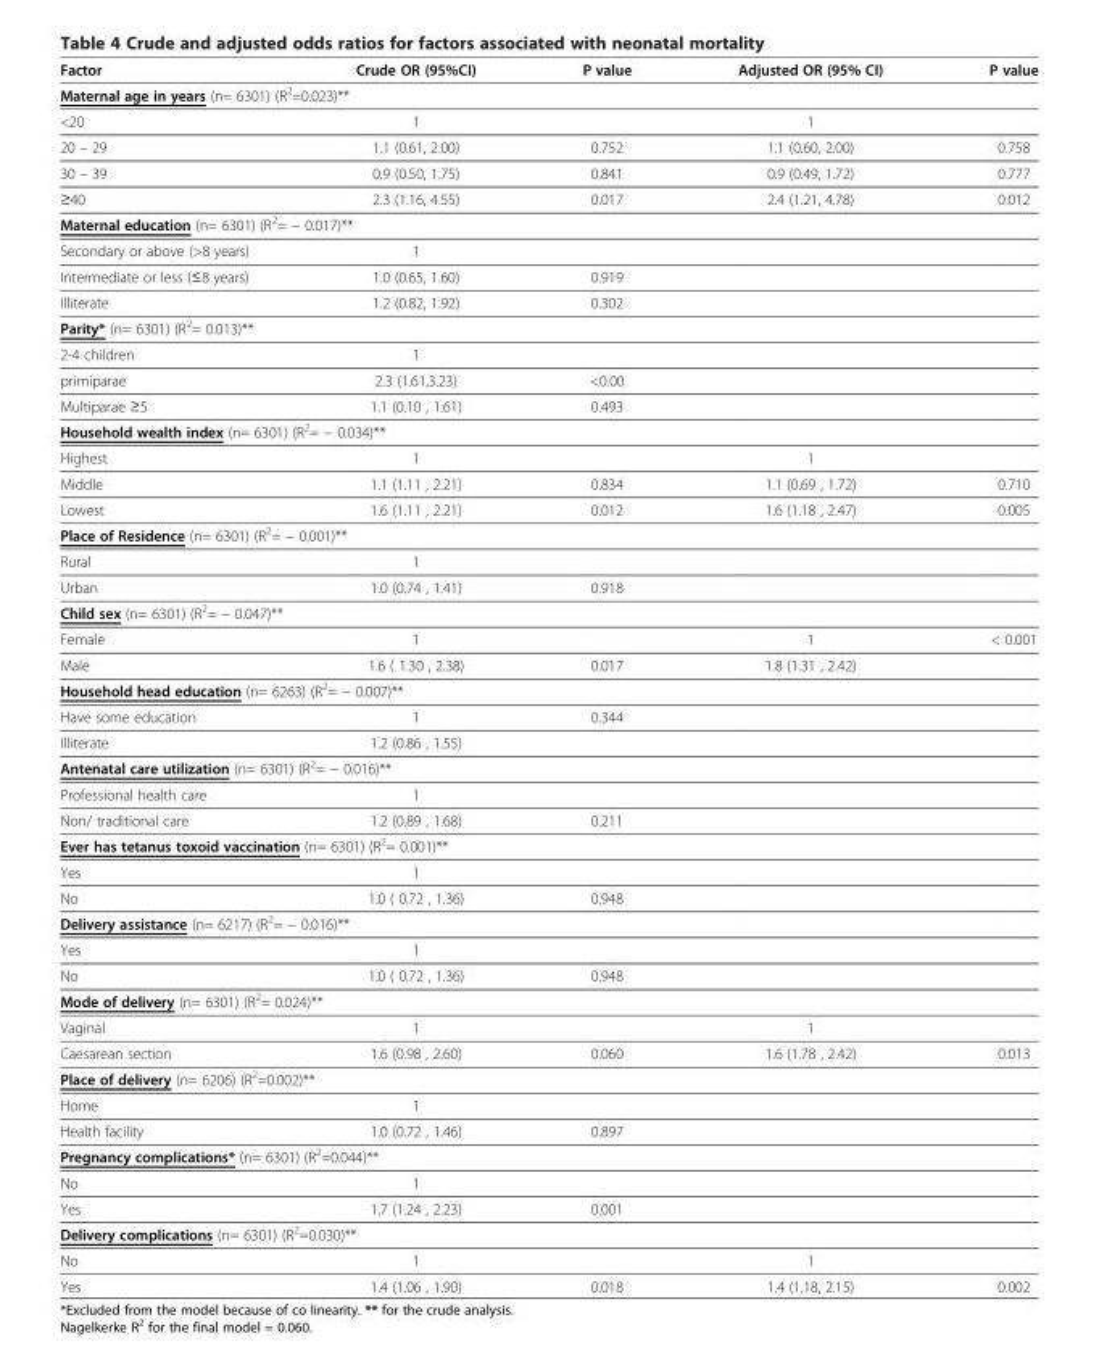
<table><thead><tr><td>Factor</td><td>Crude OR (95%CI)</td><td>P value</td><td>Adjusted OR (95% CI)</td><td>P value</td></tr></thead><tbody><tr><td colspan="5">Maternal age in years (n= 6301) (R<sup>2</sup>=0.023)**</td></tr><tr><td>&lt;20</td><td>1</td><td></td><td>1</td><td></td></tr><tr><td>20 – 29</td><td>1.1 (0.61, 2.00)</td><td>0.752</td><td>1.1 (0.60, 2.00)</td><td>0.758</td></tr><tr><td>30 – 39</td><td>0.9 (0.50, 1.75)</td><td>0.841</td><td>0.9 (0.49, 1.72)</td><td>0.777</td></tr><tr><td>≥40</td><td>2.3 (1.16, 4.55)</td><td>0.017</td><td>2.4 (1.21, 4.78)</td><td>0.012</td></tr><tr><td colspan="5">Maternal education (n= 6301) (R<sup>2</sup>= − 0.017)**</td></tr><tr><td>Secondary or above (&gt;8 years)</td><td>1</td><td></td><td></td><td></td></tr><tr><td>Intermediate or less (≤8 years)</td><td>1.0 (0.65, 1.60)</td><td>0.919</td><td></td><td></td></tr><tr><td>Illiterate</td><td>1.2 (0.82, 1.92)</td><td>0.302</td><td></td><td></td></tr><tr><td colspan="5">Parity* (n= 6301) (R<sup>2</sup>= 0.013)**</td></tr><tr><td>2-4 children</td><td>1</td><td></td><td></td><td></td></tr><tr><td>primiparae</td><td>2.3 (1.61,3.23)</td><td>&lt;0.00</td><td></td><td></td></tr><tr><td>Multiparae ≥5</td><td>1.1 (0.10 , 1.61)</td><td>0.493</td><td></td><td></td></tr><tr><td colspan="5">Household wealth index (n= 6301) (R<sup>2</sup>= − 0.034)**</td></tr><tr><td>Highest</td><td>1</td><td></td><td>1</td><td></td></tr><tr><td>Middle</td><td>1.1 (1.11 , 2.21)</td><td>0.834</td><td>1.1 (0.69 , 1.72)</td><td>0.710</td></tr><tr><td>Lowest</td><td>1.6 (1.11 , 2.21)</td><td>0.012</td><td>1.6 (1.18 , 2.47)</td><td>0.005</td></tr><tr><td colspan="5">Place of Residence (n= 6301) (R<sup>2</sup>= − 0.001)**</td></tr><tr><td>Rural</td><td>1</td><td></td><td></td><td></td></tr><tr><td>Urban</td><td>1.0 (0.74 , 1.41)</td><td>0.918</td><td></td><td></td></tr><tr><td colspan="5">Child sex (n= 6301) (R<sup>2</sup>= − 0.047)**</td></tr><tr><td>Female</td><td>1</td><td></td><td>1</td><td>&lt; 0.001</td></tr><tr><td>Male</td><td>1.6 ( 1.30 , 2.38)</td><td>0.017</td><td>1.8 (1.31 , 2.42)</td><td></td></tr><tr><td colspan="5">Household head education (n= 6263) (R<sup>2</sup>= − 0.007)**</td></tr><tr><td>Have some education</td><td>1</td><td>0.344</td><td></td><td></td></tr><tr><td>Illiterate</td><td>1.2 (0.86 , 1.55)</td><td></td><td></td><td></td></tr><tr><td colspan="5">Antenatal care utilization (n= 6301) (R<sup>2</sup>= − 0.016)**</td></tr><tr><td>Professional health care</td><td>1</td><td></td><td></td><td></td></tr><tr><td>Non/ traditional care</td><td>1.2 (0.89 , 1.68)</td><td>0.211</td><td></td><td></td></tr><tr><td colspan="5">Ever has tetanus toxoid vaccination (n= 6301) (R<sup>2</sup>= 0.001)**</td></tr><tr><td>Yes</td><td>1</td><td></td><td></td><td></td></tr><tr><td>No</td><td>1.0 ( 0.72 , 1.36)</td><td>0.948</td><td></td><td></td></tr><tr><td colspan="5">Delivery assistance (n= 6217) (R<sup>2</sup>= − 0.016)**</td></tr><tr><td>Yes</td><td>1</td><td></td><td></td><td></td></tr><tr><td>No</td><td>1.0 ( 0.72 , 1.36)</td><td>0.948</td><td></td><td></td></tr><tr><td colspan="5">Mode of delivery (n= 6301) (R<sup>2</sup>= 0.024)**</td></tr><tr><td>Vaginal</td><td>1</td><td></td><td>1</td><td></td></tr><tr><td>Caesarean section</td><td>1.6 (0.98 , 2.60)</td><td>0.060</td><td>1.6 (1.78 , 2.42)</td><td>0.013</td></tr><tr><td colspan="5">Place of delivery (n= 6206) (R<sup>2</sup>=0.002)**</td></tr><tr><td>Home</td><td>1</td><td></td><td></td><td></td></tr><tr><td>Health facility</td><td>1.0 (0.72 , 1.46)</td><td>0.897</td><td></td><td></td></tr><tr><td colspan="5">Pregnancy complications* (n= 6301) (R<sup>2</sup>=0.044)**</td></tr><tr><td>No</td><td>1</td><td></td><td></td><td></td></tr><tr><td>Yes</td><td>1.7 (1.24 , 2.23)</td><td>0.001</td><td></td><td></td></tr><tr><td colspan="5">Delivery complications (n= 6301) (R<sup>2</sup>=0.030)**</td></tr><tr><td>No</td><td>1</td><td></td><td>1</td><td></td></tr><tr><td>Yes</td><td>1.4 (1.06 , 1.90)</td><td>0.018</td><td>1.4 (1.18, 2.15)</td><td>0.002</td></tr></tbody></table>